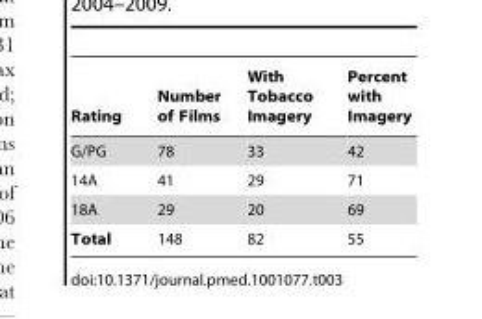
<table><thead><tr><td>Rating</td><td>Number of Films</td><td>With Tobacco Imagery</td><td>Percent with Imagery</td></tr></thead><tbody><tr><td>G/PG</td><td>78</td><td>33</td><td>42</td></tr><tr><td>14A</td><td>41</td><td>29</td><td>71</td></tr><tr><td>18A</td><td>29</td><td>20</td><td>69</td></tr><tr><td>Total</td><td>148</td><td>82</td><td>55</td></tr></tbody></table>